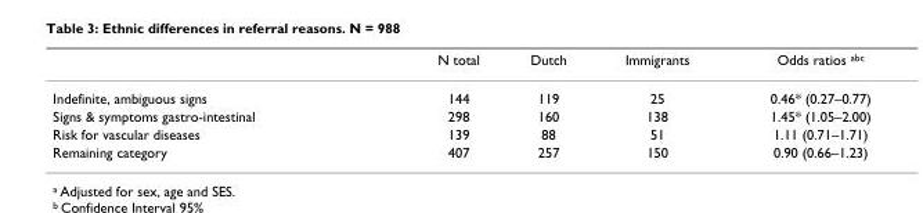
<table><thead><tr><td></td><td>N total</td><td>Dutch</td><td>Immigrants</td><td>Odds ratios <sup>abc</sup></td></tr></thead><tbody><tr><td>Indefinite, ambiguous signs</td><td>144</td><td>119</td><td>25</td><td>0.46* (0.27–0.77)</td></tr><tr><td>Signs &amp; symptoms gastro-intestinal</td><td>298</td><td>160</td><td>138</td><td>1.45* (1.05–2.00)</td></tr><tr><td>Risk for vascular diseases</td><td>139</td><td>88</td><td>51</td><td>1.11 (0.71–1.71)</td></tr><tr><td>Remaining category</td><td>407</td><td>257</td><td>150</td><td>0.90 (0.66–1.23)</td></tr></tbody></table>